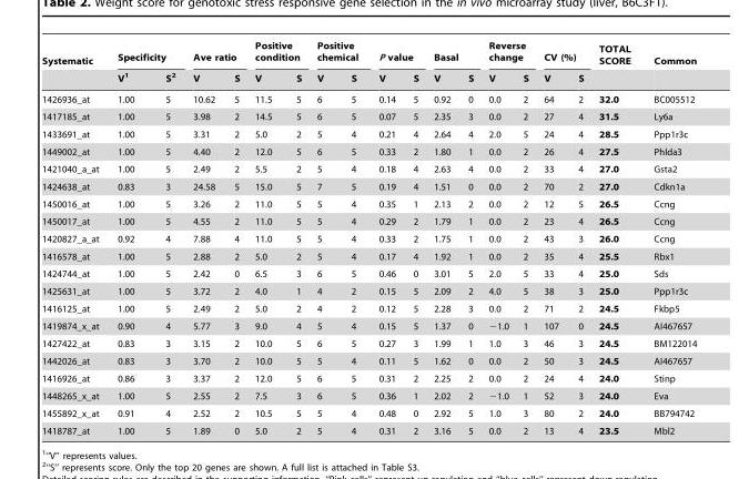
<table><thead><tr><td rowspan="2">Systematic</td><td colspan="2">Specificity</td><td colspan="2">Ave ratio</td><td colspan="2">Positive condition</td><td colspan="2">Positive chemical</td><td colspan="2">P value</td><td colspan="2">Basal</td><td colspan="2">Reverse change</td><td colspan="2">CV (%)</td><td rowspan="2">TOTAL SCORE</td><td rowspan="2">Common</td></tr><tr><td>V<sup>1</sup></td><td>S<sup>2</sup></td><td>V</td><td>S</td><td>V</td><td>S</td><td>V</td><td>S</td><td>V</td><td>S</td><td>V</td><td>S</td><td>V</td><td>S</td><td>V</td><td>S</td></tr></thead><tbody><tr><td>1426936_at</td><td>1.00</td><td>5</td><td>10.62</td><td>5</td><td>11.5</td><td>5</td><td>6</td><td>5</td><td>0.14</td><td>5</td><td>0.92</td><td>0</td><td>0.0</td><td>2</td><td>64</td><td>2</td><td>32.0</td><td>BC005512</td></tr><tr><td>1417185_at</td><td>1.00</td><td>5</td><td>3.98</td><td>2</td><td>14.5</td><td>5</td><td>6</td><td>5</td><td>0.07</td><td>5</td><td>2.35</td><td>3</td><td>0.0</td><td>2</td><td>27</td><td>4</td><td>31.5</td><td>Ly6a</td></tr><tr><td>1433691_at</td><td>1.00</td><td>5</td><td>3.31</td><td>2</td><td>5.0</td><td>2</td><td>5</td><td>4</td><td>0.21</td><td>4</td><td>2.64</td><td>4</td><td>2.0</td><td>5</td><td>24</td><td>4</td><td>28.5</td><td>Ppp1r3c</td></tr><tr><td>1449002_at</td><td>1.00</td><td>5</td><td>4.40</td><td>2</td><td>12.0</td><td>5</td><td>6</td><td>5</td><td>0.33</td><td>2</td><td>1.80</td><td>1</td><td>0.0</td><td>2</td><td>26</td><td>4</td><td>27.5</td><td>Phlda3</td></tr><tr><td>1421040_a_at</td><td>1.00</td><td>5</td><td>2.49</td><td>2</td><td>5.5</td><td>2</td><td>5</td><td>4</td><td>0.18</td><td>4</td><td>2.63</td><td>4</td><td>0.0</td><td>2</td><td>33</td><td>4</td><td>27.0</td><td>Gsta2</td></tr><tr><td>1424638_at</td><td>0.83</td><td>3</td><td>24.58</td><td>5</td><td>15.0</td><td>5</td><td>7</td><td>5</td><td>0.19</td><td>4</td><td>1.51</td><td>0</td><td>0.0</td><td>2</td><td>70</td><td>2</td><td>27.0</td><td>Cdkn1a</td></tr><tr><td>1450016_at</td><td>1.00</td><td>5</td><td>3.26</td><td>2</td><td>11.0</td><td>5</td><td>5</td><td>4</td><td>0.35</td><td>1</td><td>2.13</td><td>2</td><td>0.0</td><td>2</td><td>12</td><td>5</td><td>26.5</td><td>Ccng</td></tr><tr><td>1450017_at</td><td>1.00</td><td>5</td><td>4.55</td><td>2</td><td>11.0</td><td>5</td><td>5</td><td>4</td><td>0.29</td><td>2</td><td>1.79</td><td>1</td><td>0.0</td><td>2</td><td>23</td><td>4</td><td>26.5</td><td>Ccng</td></tr><tr><td>1420827_a_at</td><td>0.92</td><td>4</td><td>7.88</td><td>4</td><td>11.0</td><td>5</td><td>5</td><td>4</td><td>0.33</td><td>2</td><td>1.75</td><td>1</td><td>0.0</td><td>2</td><td>43</td><td>3</td><td>26.0</td><td>Ccng</td></tr><tr><td>1416578_at</td><td>1.00</td><td>5</td><td>2.88</td><td>2</td><td>5.0</td><td>2</td><td>5</td><td>4</td><td>0.17</td><td>4</td><td>1.92</td><td>1</td><td>0.0</td><td>2</td><td>35</td><td>4</td><td>25.5</td><td>Rbx1</td></tr><tr><td>1424744_at</td><td>1.00</td><td>5</td><td>2.42</td><td>0</td><td>6.5</td><td>3</td><td>6</td><td>5</td><td>0.46</td><td>0</td><td>3.01</td><td>5</td><td>2.0</td><td>5</td><td>33</td><td>4</td><td>25.0</td><td>Sds</td></tr><tr><td>1425631_at</td><td>1.00</td><td>5</td><td>3.72</td><td>2</td><td>4.0</td><td>1</td><td>4</td><td>2</td><td>0.15</td><td>5</td><td>2.09</td><td>2</td><td>4.0</td><td>5</td><td>38</td><td>3</td><td>25.0</td><td>Ppp1r3c</td></tr><tr><td>1416125_at</td><td>1.00</td><td>5</td><td>2.49</td><td>2</td><td>5.0</td><td>2</td><td>4</td><td>2</td><td>0.12</td><td>5</td><td>2.28</td><td>3</td><td>0.0</td><td>2</td><td>71</td><td>2</td><td>24.5</td><td>Fkbp5</td></tr><tr><td>1419874_x_at</td><td>0.90</td><td>4</td><td>5.77</td><td>3</td><td>9.0</td><td>4</td><td>5</td><td>4</td><td>0.15</td><td>5</td><td>1.37</td><td>0</td><td>−1.0</td><td>1</td><td>107</td><td>0</td><td>24.5</td><td>AI467657</td></tr><tr><td>1427422_at</td><td>0.83</td><td>3</td><td>3.15</td><td>2</td><td>10.0</td><td>5</td><td>6</td><td>5</td><td>0.27</td><td>3</td><td>1.99</td><td>1</td><td>1.0</td><td>3</td><td>46</td><td>3</td><td>24.5</td><td>BM122014</td></tr><tr><td>1442026_at</td><td>0.83</td><td>3</td><td>3.70</td><td>2</td><td>10.0</td><td>5</td><td>5</td><td>4</td><td>0.11</td><td>5</td><td>1.62</td><td>0</td><td>0.0</td><td>2</td><td>50</td><td>3</td><td>24.5</td><td>AI467657</td></tr><tr><td>1416926_at</td><td>0.86</td><td>3</td><td>3.37</td><td>2</td><td>12.0</td><td>5</td><td>6</td><td>5</td><td>0.31</td><td>2</td><td>2.25</td><td>2</td><td>0.0</td><td>2</td><td>24</td><td>4</td><td>24.0</td><td>Stinp</td></tr><tr><td>1448265_x_at</td><td>1.00</td><td>5</td><td>2.55</td><td>2</td><td>7.5</td><td>3</td><td>6</td><td>5</td><td>0.36</td><td>1</td><td>2.02</td><td>2</td><td>−1.0</td><td>1</td><td>52</td><td>3</td><td>24.0</td><td>Eva</td></tr><tr><td>1455892_x_at</td><td>0.91</td><td>4</td><td>2.52</td><td>2</td><td>10.5</td><td>5</td><td>5</td><td>4</td><td>0.48</td><td>0</td><td>2.92</td><td>5</td><td>1.0</td><td>3</td><td>80</td><td>2</td><td>24.0</td><td>BB794742</td></tr><tr><td>1418787_at</td><td>1.00</td><td>5</td><td>1.89</td><td>0</td><td>5.0</td><td>2</td><td>5</td><td>4</td><td>0.31</td><td>2</td><td>3.16</td><td>5</td><td>0.0</td><td>2</td><td>13</td><td>4</td><td>23.5</td><td>Mbl2</td></tr></tbody></table>